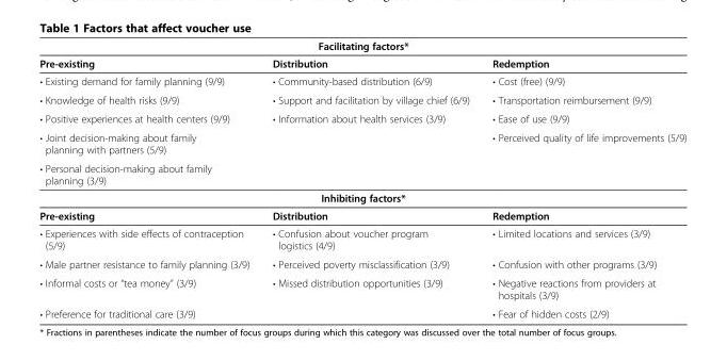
<table><thead><tr><td colspan="3">Facilitating factors*</td></tr><tr><td>Pre-existing</td><td>Distribution</td><td>Redemption</td></tr></thead><tbody><tr><td>• Existing demand for family planning (9/9)</td><td>• Community-based distribution (6/9)</td><td>• Cost (free) (9/9)</td></tr><tr><td>• Knowledge of health risks (9/9)</td><td>• Support and facilitation by village chief (6/9)</td><td>• Transportation reimbursement (9/9)</td></tr><tr><td>• Positive experiences at health centers (9/9)</td><td>• Information about health services (3/9)</td><td>• Ease of use (9/9)</td></tr><tr><td>• Joint decision-making about family planning with partners (5/9)</td><td></td><td>• Perceived quality of life improvements (5/9)</td></tr><tr><td colspan="3">• Personal decision-making about family planning (3/9)</td></tr><tr><td colspan="3">Inhibiting factors*</td></tr><tr><td>Pre-existing</td><td>Distribution</td><td>Redemption</td></tr><tr><td>• Experiences with side effects of contraception (5/9)</td><td>• Confusion about voucher program logistics (4/9)</td><td>• Limited locations and services (3/9)</td></tr><tr><td>• Male partner resistance to family planning (3/9)</td><td>• Perceived poverty misclassification (3/9)</td><td>• Confusion with other programs (3/9)</td></tr><tr><td>• Informal costs or “tea money” (3/9)</td><td>• Missed distribution opportunities (3/9)</td><td>• Negative reactions from providers at hospitals (3/9)</td></tr><tr><td>• Preference for traditional care (3/9)</td><td></td><td>• Fear of hidden costs (2/9)</td></tr></tbody></table>